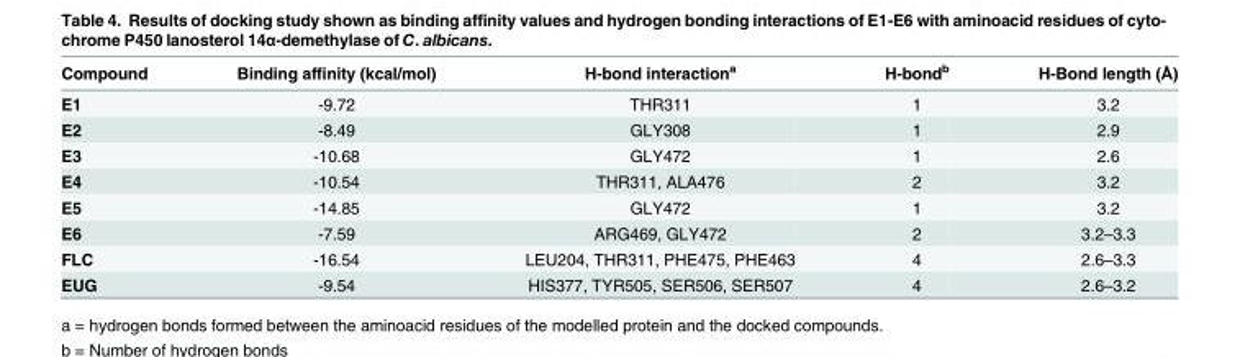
<table><thead><tr><td>Compound</td><td>Binding affinity (kcal/mol)</td><td>H-bond interaction<sup>a</sup></td><td>H-bond<sup>b</sup></td><td>H-Bond length (Å)</td></tr></thead><tbody><tr><td>E1</td><td>-9.72</td><td>THR311</td><td>1</td><td>3.2</td></tr><tr><td>E2</td><td>-8.49</td><td>GLY308</td><td>1</td><td>2.9</td></tr><tr><td>E3</td><td>-10.68</td><td>GLY472</td><td>1</td><td>2.6</td></tr><tr><td>E4</td><td>-10.54</td><td>THR311, ALA476</td><td>2</td><td>3.2</td></tr><tr><td>E5</td><td>-14.85</td><td>GLY472</td><td>1</td><td>3.2</td></tr><tr><td>E6</td><td>-7.59</td><td>ARG469, GLY472</td><td>2</td><td>3.2–3.3</td></tr><tr><td>FLC</td><td>-16.54</td><td>LEU204, THR311, PHE475, PHE463</td><td>4</td><td>2.6–3.3</td></tr><tr><td>EUG</td><td>-9.54</td><td>HIS377, TYR505, SER506, SER507</td><td>4</td><td>2.6–3.2</td></tr></tbody></table>